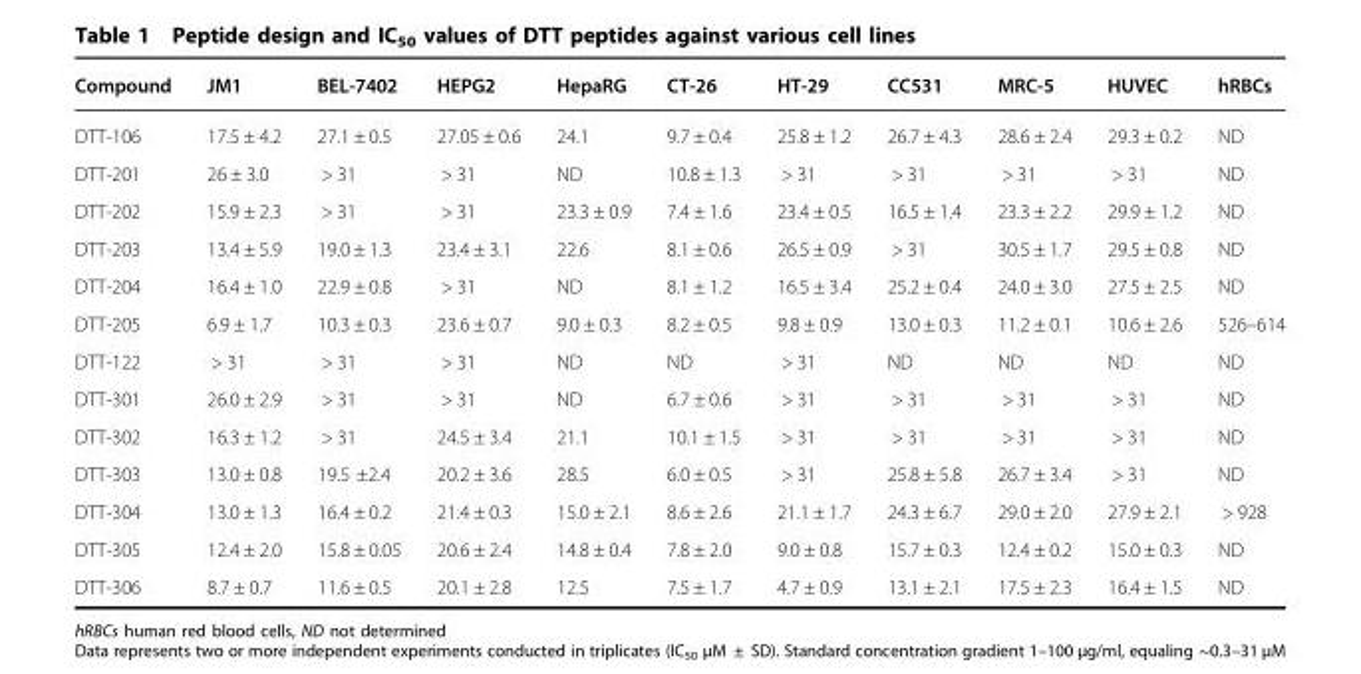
<table><thead><tr><td>Compound</td><td>JM1</td><td>BEL-7402</td><td>HEPG2</td><td>HepaRG</td><td>CT-26</td><td>HT-29</td><td>CC531</td><td>MRC-5</td><td>HUVEC</td><td>hRBCs</td></tr></thead><tbody><tr><td>DTT-106</td><td>17.5 ± 4.2</td><td>27.1 ± 0.5</td><td>27.05 ± 0.6</td><td>24.1</td><td>9.7 ± 0.4</td><td>25.8 ± 1.2</td><td>26.7 ± 4.3</td><td>28.6 ± 2.4</td><td>29.3 ± 0.2</td><td>ND</td></tr><tr><td>DTT-201</td><td>26 ± 3.0</td><td>&gt; 31</td><td>&gt; 31</td><td>ND</td><td>10.8 ± 1.3</td><td>&gt; 31</td><td>&gt; 31</td><td>&gt; 31</td><td>&gt; 31</td><td>ND</td></tr><tr><td>DTT-202</td><td>15.9 ± 2.3</td><td>&gt; 31</td><td>&gt; 31</td><td>23.3 ± 0.9</td><td>7.4 ± 1.6</td><td>23.4 ± 0.5</td><td>16.5 ± 1.4</td><td>23.3 ± 2.2</td><td>29.9 ± 1.2</td><td>ND</td></tr><tr><td>DTT-203</td><td>13.4 ± 5.9</td><td>19.0 ± 1.3</td><td>23.4 ± 3.1</td><td>22.6</td><td>8.1 ± 0.6</td><td>26.5 ± 0.9</td><td>&gt; 31</td><td>30.5 ± 1.7</td><td>29.5 ± 0.8</td><td>ND</td></tr><tr><td>DTT-204</td><td>16.4 ± 1.0</td><td>22.9 ± 0.8</td><td>&gt; 31</td><td>ND</td><td>8.1 ± 1.2</td><td>16.5 ± 3.4</td><td>25.2 ± 0.4</td><td>24.0 ± 3.0</td><td>27.5 ± 2.5</td><td>ND</td></tr><tr><td>DTT-205</td><td>6.9 ± 1.7</td><td>10.3 ± 0.3</td><td>23.6 ± 0.7</td><td>9.0 ± 0.3</td><td>8.2 ± 0.5</td><td>9.8 ± 0.9</td><td>13.0 ± 0.3</td><td>11.2 ± 0.1</td><td>10.6 ± 2.6</td><td>526–614</td></tr><tr><td>DTT-122</td><td>&gt; 31</td><td>&gt; 31</td><td>&gt; 31</td><td>ND</td><td>ND</td><td>&gt; 31</td><td>ND</td><td>ND</td><td>ND</td><td>ND</td></tr><tr><td>DTT-301</td><td>26.0 ± 2.9</td><td>&gt; 31</td><td>&gt; 31</td><td>ND</td><td>6.7 ± 0.6</td><td>&gt; 31</td><td>&gt; 31</td><td>&gt; 31</td><td>&gt; 31</td><td>ND</td></tr><tr><td>DTT-302</td><td>16.3 ± 1.2</td><td>&gt; 31</td><td>24.5 ± 3.4</td><td>21.1</td><td>10.1 ± 1.5</td><td>&gt; 31</td><td>&gt; 31</td><td>&gt; 31</td><td>&gt; 31</td><td>ND</td></tr><tr><td>DTT-303</td><td>13.0 ± 0.8</td><td>19.5 ±2.4</td><td>20.2 ± 3.6</td><td>28.5</td><td>6.0 ± 0.5</td><td>&gt; 31</td><td>25.8 ± 5.8</td><td>26.7 ± 3.4</td><td>&gt; 31</td><td>ND</td></tr><tr><td>DTT-304</td><td>13.0 ± 1.3</td><td>16.4 ± 0.2</td><td>21.4 ± 0.3</td><td>15.0 ± 2.1</td><td>8.6 ± 2.6</td><td>21.1 ± 1.7</td><td>24.3 ± 6.7</td><td>29.0 ± 2.0</td><td>27.9 ± 2.1</td><td>&gt; 928</td></tr><tr><td>DTT-305</td><td>12.4 ± 2.0</td><td>15.8 ± 0.05</td><td>20.6 ± 2.4</td><td>14.8 ± 0.4</td><td>7.8 ± 2.0</td><td>9.0 ± 0.8</td><td>15.7 ± 0.3</td><td>12.4 ± 0.2</td><td>15.0 ± 0.3</td><td>ND</td></tr><tr><td>DTT-306</td><td>8.7 ± 0.7</td><td>11.6 ± 0.5</td><td>20.1 ± 2.8</td><td>12.5</td><td>7.5 ± 1.7</td><td>4.7 ± 0.9</td><td>13.1 ± 2.1</td><td>17.5 ± 2.3</td><td>16.4 ± 1.5</td><td>ND</td></tr></tbody></table>